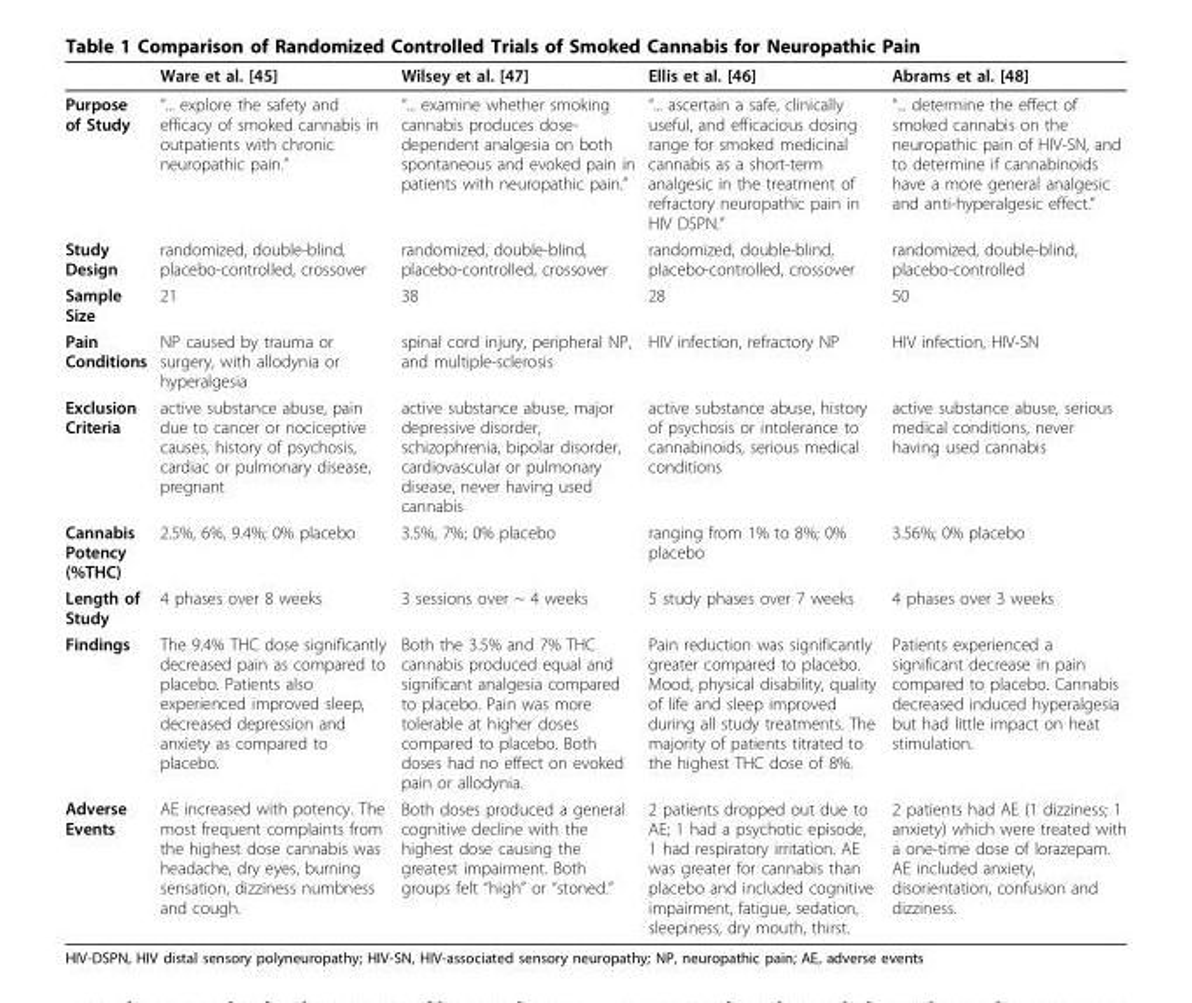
<table><thead><tr><td></td><td>Ware et al. [45]</td><td>Wilsey et al. [47]</td><td>Ellis et al. [46]</td><td>Abrams et al. [48]</td></tr></thead><tbody><tr><td>Purpose of Study</td><td>“... explore the safety and efficacy of smoked cannabis in outpatients with chronic neuropathic pain.”</td><td>“... examine whether smoking cannabis produces dose- dependent analgesia on both spontaneous and evoked pain in patients with neuropathic pain.”</td><td>“... ascertain a safe, clinically useful, and efficacious dosing range for smoked medicinal cannabis as a short-term analgesic in the treatment of refractory neuropathic pain in HIV DSPN.”</td><td>“... determine the effect of smoked cannabis on the neuropathic pain of HIV-SN, and to determine if cannabinoids have a more general analgesic and anti-hyperalgesic effect.”</td></tr><tr><td>Study Design</td><td>randomized, double-blind, placebo-controlled, crossover</td><td>randomized, double-blind, placebo-controlled, crossover</td><td>randomized, double-blind, placebo-controlled, crossover</td><td>randomized, double-blind, placebo-controlled</td></tr><tr><td>Sample Size</td><td>21</td><td>38</td><td>28</td><td>50</td></tr><tr><td>Pain Conditions</td><td>NP caused by trauma or surgery, with allodynia or hyperalgesia</td><td>spinal cord injury, peripheral NP, and multiple-sclerosis</td><td>HIV infection, refractory NP</td><td>HIV infection, HIV-SN</td></tr><tr><td>Exclusion Criteria</td><td>active substance abuse, pain due to cancer or nociceptive causes, history of psychosis, cardiac or pulmonary disease, pregnant</td><td>active substance abuse, major depressive disorder, schizophrenia, bipolar disorder, cardiovascular or pulmonary disease, never having used cannabis</td><td>active substance abuse, history of psychosis or intolerance to cannabinoids, serious medical conditions</td><td>active substance abuse, serious medical conditions, never having used cannabis</td></tr><tr><td>Cannabis Potency (%THC)</td><td>2.5%, 6%, 9.4%; 0% placebo</td><td>3.5%, 7%; 0% placebo</td><td>ranging from 1% to 8%; 0% placebo</td><td>3.56%; 0% placebo</td></tr><tr><td>Length of Study</td><td>4 phases over 8 weeks</td><td>3 sessions over ~ 4 weeks</td><td>5 study phases over 7 weeks</td><td>4 phases over 3 weeks</td></tr><tr><td>Findings</td><td>The 9.4% THC dose significantly decreased pain as compared to placebo. Patients also experienced improved sleep, decreased depression and anxiety as compared to placebo.</td><td>Both the 3.5% and 7% THC cannabis produced equal and significant analgesia compared to placebo. Pain was more tolerable at higher doses compared to placebo. Both doses had no effect on evoked pain or allodynia.</td><td>Pain reduction was significantly greater compared to placebo. Mood, physical disability, quality of life and sleep improved during all study treatments. The majority of patients titrated to the highest THC dose of 8%.</td><td>Patients experienced a significant decrease in pain compared to placebo. Cannabis decreased induced hyperalgesia but had little impact on heat stimulation.</td></tr><tr><td>Adverse Events</td><td>AE increased with potency. The most frequent complaints from the highest dose cannabis was headache, dry eyes, burning sensation, dizziness numbness and cough.</td><td>Both doses produced a general cognitive decline with the highest dose causing the greatest impairment. Both groups felt “high” or “stoned.”</td><td>2 patients dropped out due to AE; 1 had a psychotic episode, 1 had respiratory irritation. AE was greater for cannabis than placebo and included cognitive impairment, fatigue, sedation, sleepiness, dry mouth, thirst.</td><td>2 patients had AE (1 dizziness; 1 anxiety) which were treated with a one-time dose of lorazepam. AE included anxiety, disorientation, confusion and dizziness.</td></tr></tbody></table>